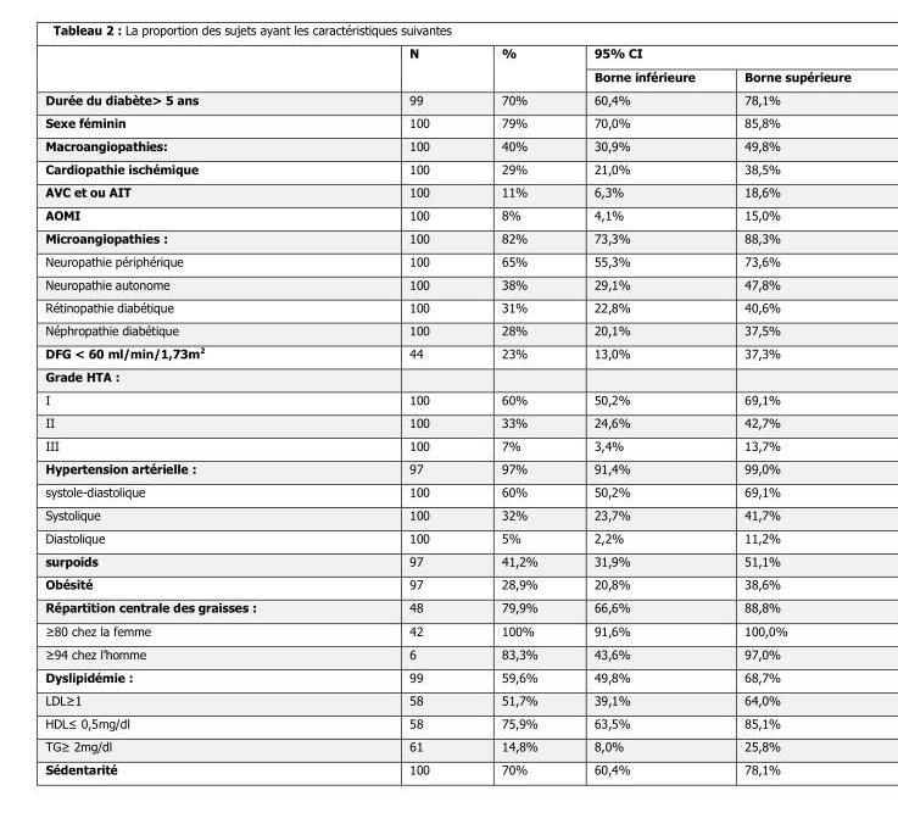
<table><thead><tr><td rowspan="2"></td><td rowspan="2">N</td><td rowspan="2">%</td><td colspan="2">95% CI</td></tr><tr><td>Borne inférieure</td><td>Borne supérieure</td></tr></thead><tbody><tr><td>Durée du diabète&gt; 5 ans</td><td>99</td><td>70%</td><td>60,4%</td><td>78,1%</td></tr><tr><td>Sexe féminin</td><td>100</td><td>79%</td><td>70,0%</td><td>85,8%</td></tr><tr><td>Macroangiopathies:</td><td>100</td><td>40%</td><td>30,9%</td><td>49,8%</td></tr><tr><td>Cardiopathie ischémique</td><td>100</td><td>29%</td><td>21,0%</td><td>38,5%</td></tr><tr><td>AVC et ou AIT</td><td>100</td><td>11%</td><td>6,3%</td><td>18,6%</td></tr><tr><td>AOMI</td><td>100</td><td>8%</td><td>4,1%</td><td>15,0%</td></tr><tr><td>Microangiopathies :</td><td>100</td><td>82%</td><td>73,3%</td><td>88,3%</td></tr><tr><td>Neuropathie périphérique</td><td>100</td><td>65%</td><td>55,3%</td><td>73,6%</td></tr><tr><td>Neuropathie autonome</td><td>100</td><td>38%</td><td>29,1%</td><td>47,8%</td></tr><tr><td>Rétinopathie diabétique</td><td>100</td><td>31%</td><td>22,8%</td><td>40,6%</td></tr><tr><td>Néphropathie diabétique</td><td>100</td><td>28%</td><td>20,1%</td><td>37,5%</td></tr><tr><td>DFG &lt; 60 ml/min/1,73m<sup>2</sup></td><td>44</td><td>23%</td><td>13,0%</td><td>37,3%</td></tr><tr><td colspan="5">Grade HTA :</td></tr><tr><td>I</td><td>100</td><td>60%</td><td>50,2%</td><td>69,1%</td></tr><tr><td>II</td><td>100</td><td>33%</td><td>24,6%</td><td>42,7%</td></tr><tr><td>III</td><td>100</td><td>7%</td><td>3,4%</td><td>13,7%</td></tr><tr><td>Hypertension artérielle :</td><td>97</td><td>97%</td><td>91,4%</td><td>99,0%</td></tr><tr><td>systole-diastolique</td><td>100</td><td>60%</td><td>50,2%</td><td>69,1%</td></tr><tr><td>Systolique</td><td>100</td><td>32%</td><td>23,7%</td><td>41,7%</td></tr><tr><td>Diastolique</td><td>100</td><td>5%</td><td>2,2%</td><td>11,2%</td></tr><tr><td>surpoids</td><td>97</td><td>41,2%</td><td>31,9%</td><td>51,1%</td></tr><tr><td>Obésité</td><td>97</td><td>28,9%</td><td>20,8%</td><td>38,6%</td></tr><tr><td>Répartition centrale des graisses :</td><td>48</td><td>79,9%</td><td>66,6%</td><td>88,8%</td></tr><tr><td>≥80 chez la femme</td><td>42</td><td>100%</td><td>91,6%</td><td>100,0%</td></tr><tr><td>≥94 chez l’homme</td><td>6</td><td>83,3%</td><td>43,6%</td><td>97,0%</td></tr><tr><td>Dyslipidémie :</td><td>99</td><td>59,6%</td><td>49,8%</td><td>68,7%</td></tr><tr><td>LDL≥1</td><td>58</td><td>51,7%</td><td>39,1%</td><td>64,0%</td></tr><tr><td>HDL≤ 0,5mg/dl</td><td>58</td><td>75,9%</td><td>63,5%</td><td>85,1%</td></tr><tr><td>TG≥ 2mg/dl</td><td>61</td><td>14,8%</td><td>8,0%</td><td>25,8%</td></tr><tr><td>Sédentarité</td><td>100</td><td>70%</td><td>60,4%</td><td>78,1%</td></tr></tbody></table>